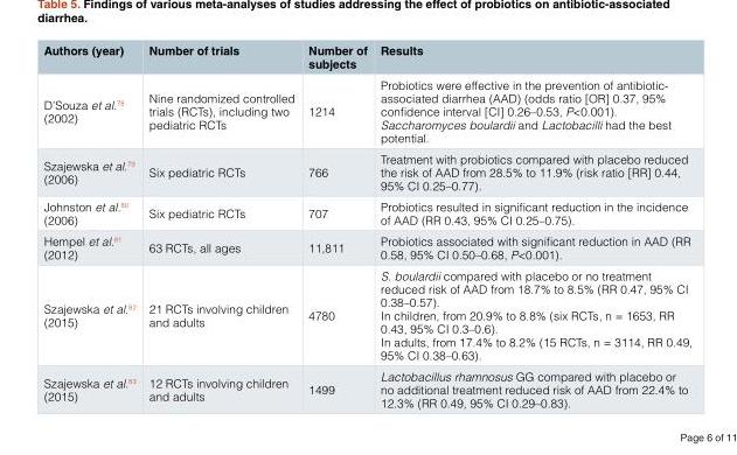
<table><thead><tr><td>Authors (year)</td><td>Number of trials</td><td>Number of subjects</td><td>Results</td></tr></thead><tbody><tr><td>D’Souza et al.<sup>78</sup> (2002)</td><td>Nine randomized controlled trials (RCTs), including two pediatric RCTs</td><td>1214</td><td>Probiotics were effective in the prevention of antibiotic- associated diarrhea (AAD) (odds ratio [OR] 0.37, 95% confidence interval [CI] 0.26–0.53, P&lt;0.001). Saccharomyces boulardii and Lactobacilli had the best potential.</td></tr><tr><td>Szajewska et al.<sup>79</sup> (2006)</td><td>Six pediatric RCTs</td><td>766</td><td>Treatment with probiotics compared with placebo reduced the risk of AAD from 28.5% to 11.9% (risk ratio [RR] 0.44, 95% CI 0.25–0.77).</td></tr><tr><td>Johnston et al.<sup>80</sup> (2006)</td><td>Six pediatric RCTs</td><td>707</td><td>Probiotics resulted in significant reduction in the incidence of AAD (RR 0.43, 95% CI 0.25–0.75).</td></tr><tr><td>Hempel et al.<sup>81</sup> (2012)</td><td>63 RCTs, all ages</td><td>11,811</td><td>Probiotics associated with significant reduction in AAD (RR 0.58, 95% CI 0.50–0.68, P&lt;0.001).</td></tr><tr><td>Szajewska et al.<sup>82</sup> (2015)</td><td>21 RCTs involving children and adults</td><td>4780</td><td>S. boulardii compared with placebo or no treatment reduced risk of AAD from 18.7% to 8.5% (RR 0.47, 95% CI 0.38–0.57). In children, from 20.9% to 8.8% (six RCTs, n = 1653, RR 0.43, 95% CI 0.3–0.6). In adults, from 17.4% to 8.2% (15 RCTs, n = 3114, RR 0.49, 95% CI 0.38–0.63).</td></tr><tr><td>Szajewska et al.<sup>83</sup> (2015)</td><td>12 RCTs involving children and adults</td><td>1499</td><td>Lactobacillus rhamnosus GG compared with placebo or no additional treatment reduced risk of AAD from 22.4% to 12.3% (RR 0.49, 95% CI 0.29–0.83).</td></tr></tbody></table>